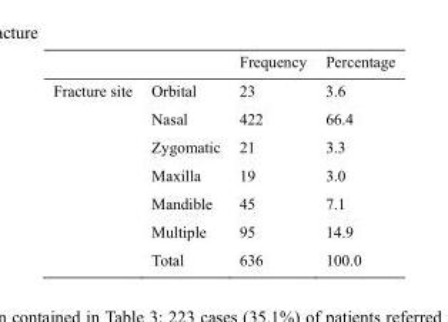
<table><thead><tr><td></td><td></td><td>Frequency</td><td>Percentage</td></tr></thead><tbody><tr><td rowspan="7">Fracture site</td><td>Orbital</td><td>23</td><td>3.6</td></tr><tr><td>Nasal</td><td>422</td><td>66.4</td></tr><tr><td>Zygomatic</td><td>21</td><td>3.3</td></tr><tr><td>Maxilla</td><td>19</td><td>3.0</td></tr><tr><td>Mandible</td><td>45</td><td>7.1</td></tr><tr><td>Multiple</td><td>95</td><td>14.9</td></tr><tr><td>Total</td><td>636</td><td>100.0</td></tr></tbody></table>